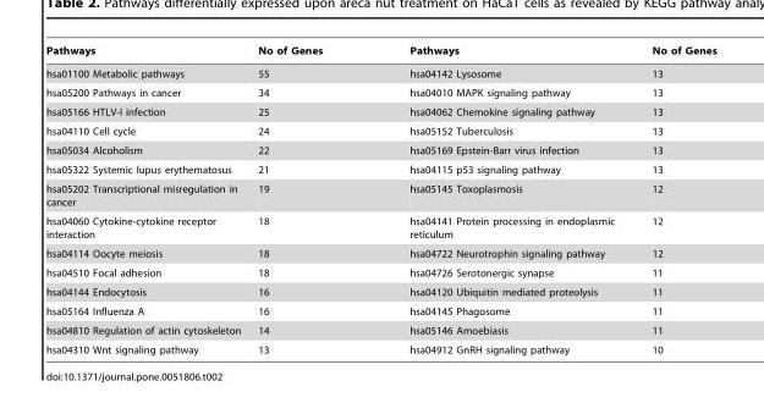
<table><thead><tr><td>Pathways</td><td>No of Genes</td><td>Pathways</td><td>No of Genes</td></tr></thead><tbody><tr><td>hsa01100 Metabolic pathways</td><td>55</td><td>hsa04142 Lysosome</td><td>13</td></tr><tr><td>hsa05200 Pathways in cancer</td><td>34</td><td>hsa04010 MAPK signaling pathway</td><td>13</td></tr><tr><td>hsa05166 HTLV-I infection</td><td>25</td><td>hsa04062 Chemokine signaling pathway</td><td>13</td></tr><tr><td>hsa04110 Cell cycle</td><td>24</td><td>hsa05152 Tuberculosis</td><td>13</td></tr><tr><td>hsa05034 Alcoholism</td><td>22</td><td>hsa05169 Epstein-Barr virus infection</td><td>13</td></tr><tr><td>hsa05322 Systemic lupus erythematosus</td><td>21</td><td>hsa04115 p53 signaling pathway</td><td>13</td></tr><tr><td>hsa05202 Transcriptional misregulation in cancer</td><td>19</td><td>hsa05145 Toxoplasmosis</td><td>12</td></tr><tr><td>hsa04060 Cytokine-cytokine receptor interaction</td><td>18</td><td>hsa04141 Protein processing in endoplasmic reticulum</td><td>12</td></tr><tr><td>hsa04114 Oocyte meiosis</td><td>18</td><td>hsa04722 Neurotrophin signaling pathway</td><td>12</td></tr><tr><td>hsa04510 Focal adhesion</td><td>18</td><td>hsa04726 Serotonergic synapse</td><td>11</td></tr><tr><td>hsa04144 Endocytosis</td><td>16</td><td>hsa04120 Ubiquitin mediated proteolysis</td><td>11</td></tr><tr><td>hsa05164 Influenza A</td><td>16</td><td>hsa04145 Phagosome</td><td>11</td></tr><tr><td>hsa04810 Regulation of actin cytoskeleton</td><td>14</td><td>hsa05146 Amoebiasis</td><td>11</td></tr><tr><td>hsa04310 Wnt signaling pathway</td><td>13</td><td>hsa04912 GnRH signaling pathway</td><td>10</td></tr></tbody></table>